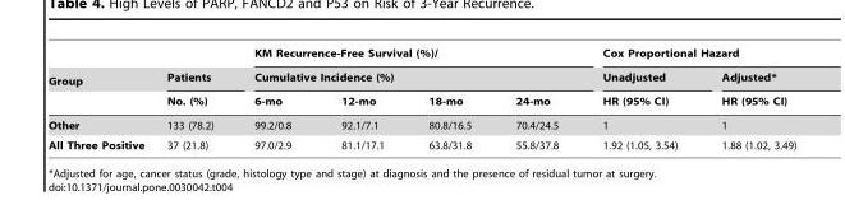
<table><thead><tr><td rowspan="3">Group</td><td rowspan="3">Patients No. (%)</td><td rowspan="2" colspan="4">KM Recurrence-Free Survival (%)/ Cumulative Incidence (%)</td><td colspan="2">Cox Proportional Hazard</td></tr><tr><td rowspan="2">Unadjusted HR (95% CI)</td><td rowspan="2">Adjusted* HR (95% CI)</td></tr><tr><td>6-mo</td><td>12-mo</td><td>18-mo</td><td>24-mo</td></tr></thead><tbody><tr><td>Other</td><td>133 (78.2)</td><td>99.2/0.8</td><td>92.1/7.1</td><td>80.8/16.5</td><td>70.4/24.5</td><td>1</td><td>1</td></tr><tr><td>All Three Positive</td><td>37 (21.8)</td><td>97.0/2.9</td><td>81.1/17.1</td><td>63.8/31.8</td><td>55.8/37.8</td><td>1.92 (1.05, 3.54)</td><td>1.88 (1.02, 3.49)</td></tr></tbody></table>